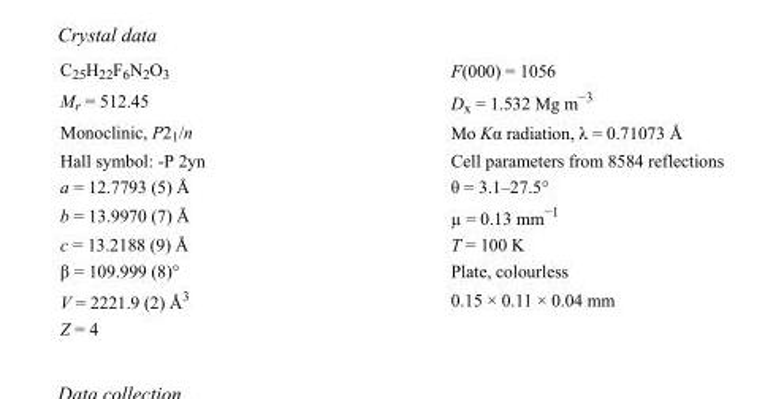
<table><tbody><tr><td>C<sub>25</sub>H<sub>22</sub>F<sub>6</sub>N<sub>2</sub>O<sub>3</sub></td><td>F(000) = 1056</td></tr><tr><td>M<sub>r</sub> = 512.45</td><td>D<sub>x</sub> = 1.532 Mg m<sup>−3</sup></td></tr><tr><td>Monoclinic, P2<sub>1</sub>/n</td><td>Mo Kα radiation, λ = 0.71073 Å</td></tr><tr><td>Hall symbol: -P 2yn</td><td>Cell parameters from 8584 reflections</td></tr><tr><td>a = 12.7793 (5) Å</td><td>θ = 3.1–27.5°</td></tr><tr><td>b = 13.9970 (7) Å</td><td>µ = 0.13 mm<sup>−1</sup></td></tr><tr><td>c = 13.2188 (9) Å</td><td>T = 100 K</td></tr><tr><td>β = 109.999 (8)°</td><td>Plate, colourless</td></tr><tr><td>V = 2221.9 (2) Å<sup>3</sup></td><td>0.15 × 0.11 × 0.04 mm</td></tr><tr><td>Z = 4</td><td></td></tr></tbody></table>